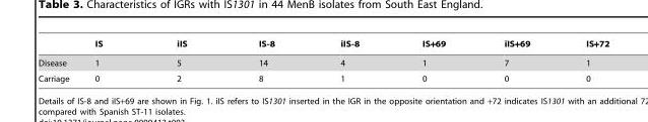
<table><thead><tr><td></td><td>IS</td><td>iIS</td><td>IS-8</td><td>iIS-8</td><td>IS+69</td><td>iIS+69</td><td>IS+72</td></tr></thead><tbody><tr><td>Disease</td><td>1</td><td>5</td><td>14</td><td>4</td><td>1</td><td>7</td><td>1</td></tr><tr><td>Carriage</td><td>0</td><td>2</td><td>8</td><td>1</td><td>0</td><td>0</td><td>0</td></tr></tbody></table>